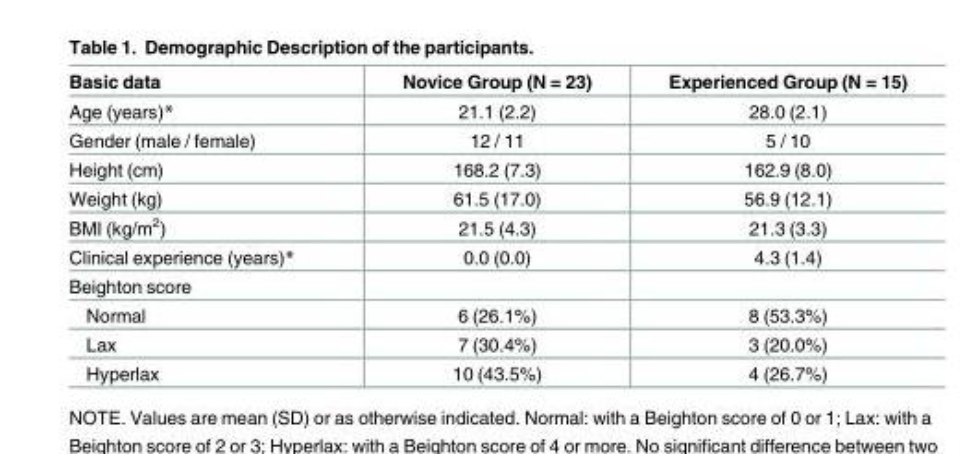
<table><thead><tr><td>Basic data</td><td>Novice Group (N = 23)</td><td>Experienced Group (N = 15)</td></tr></thead><tbody><tr><td>Age (years)*</td><td>21.1 (2.2)</td><td>28.0 (2.1)</td></tr><tr><td>Gender (male / female)</td><td>12 / 11</td><td>5 / 10</td></tr><tr><td>Height (cm)</td><td>168.2 (7.3)</td><td>162.9 (8.0)</td></tr><tr><td>Weight (kg)</td><td>61.5 (17.0)</td><td>56.9 (12.1)</td></tr><tr><td>BMI (kg/m<sup>2</sup>)</td><td>21.5 (4.3)</td><td>21.3 (3.3)</td></tr><tr><td>Clinical experience (years)*</td><td>0.0 (0.0)</td><td>4.3 (1.4)</td></tr><tr><td colspan="3">Beighton score</td></tr><tr><td>Normal</td><td>6 (26.1%)</td><td>8 (53.3%)</td></tr><tr><td>Lax</td><td>7 (30.4%)</td><td>3 (20.0%)</td></tr><tr><td>Hyperlax</td><td>10 (43.5%)</td><td>4 (26.7%)</td></tr></tbody></table>